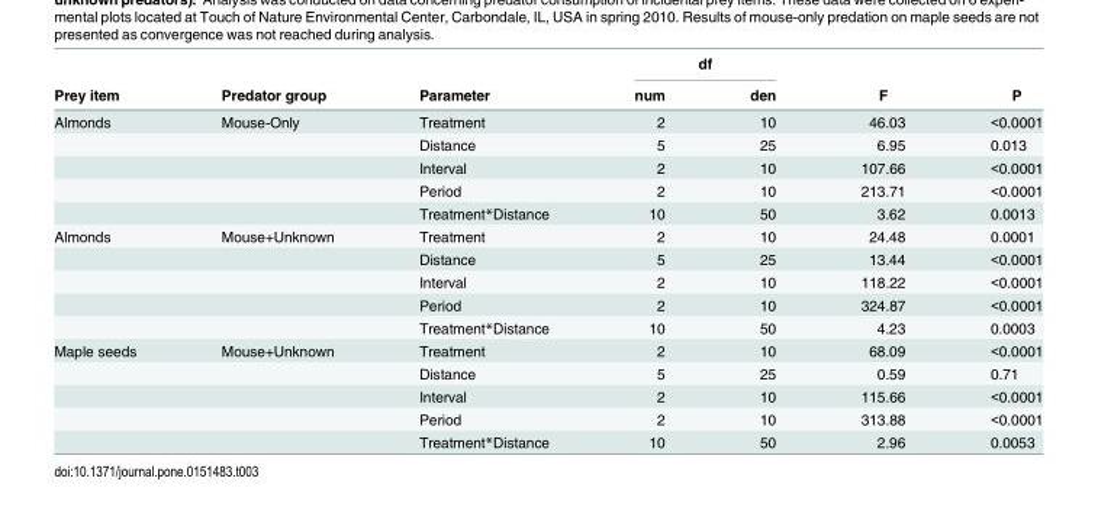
<table><thead><tr><td rowspan="2">Prey item</td><td rowspan="2">Predator group</td><td rowspan="2">Parameter</td><td colspan="2">df</td><td rowspan="2">F</td><td rowspan="2">P</td></tr><tr><td>num</td><td>den</td></tr></thead><tbody><tr><td rowspan="5">Almonds</td><td>Mouse-Only</td><td>Treatment</td><td>2</td><td>10</td><td>46.03</td><td>&lt;0.0001</td></tr><tr><td></td><td>Distance</td><td>5</td><td>25</td><td>6.95</td><td>0.013</td></tr><tr><td></td><td>Interval</td><td>2</td><td>10</td><td>107.66</td><td>&lt;0.0001</td></tr><tr><td></td><td>Period</td><td>2</td><td>10</td><td>213.71</td><td>&lt;0.0001</td></tr><tr><td></td><td>Treatment*Distance</td><td>10</td><td>50</td><td>3.62</td><td>0.0013</td></tr><tr><td rowspan="5">Almonds</td><td>Mouse+Unknown</td><td>Treatment</td><td>2</td><td>10</td><td>24.48</td><td>0.0001</td></tr><tr><td></td><td>Distance</td><td>5</td><td>25</td><td>13.44</td><td>&lt;0.0001</td></tr><tr><td></td><td>Interval</td><td>2</td><td>10</td><td>118.22</td><td>&lt;0.0001</td></tr><tr><td></td><td>Period</td><td>2</td><td>10</td><td>324.87</td><td>&lt;0.0001</td></tr><tr><td></td><td>Treatment*Distance</td><td>10</td><td>50</td><td>4.23</td><td>0.0003</td></tr><tr><td rowspan="5">Maple seeds</td><td>Mouse+Unknown</td><td>Treatment</td><td>2</td><td>10</td><td>68.09</td><td>&lt;0.0001</td></tr><tr><td></td><td>Distance</td><td>5</td><td>25</td><td>0.59</td><td>0.71</td></tr><tr><td></td><td>Interval</td><td>2</td><td>10</td><td>115.66</td><td>&lt;0.0001</td></tr><tr><td></td><td>Period</td><td>2</td><td>10</td><td>313.88</td><td>&lt;0.0001</td></tr><tr><td></td><td>Treatment*Distance</td><td>10</td><td>50</td><td>2.96</td><td>0.0053</td></tr></tbody></table>